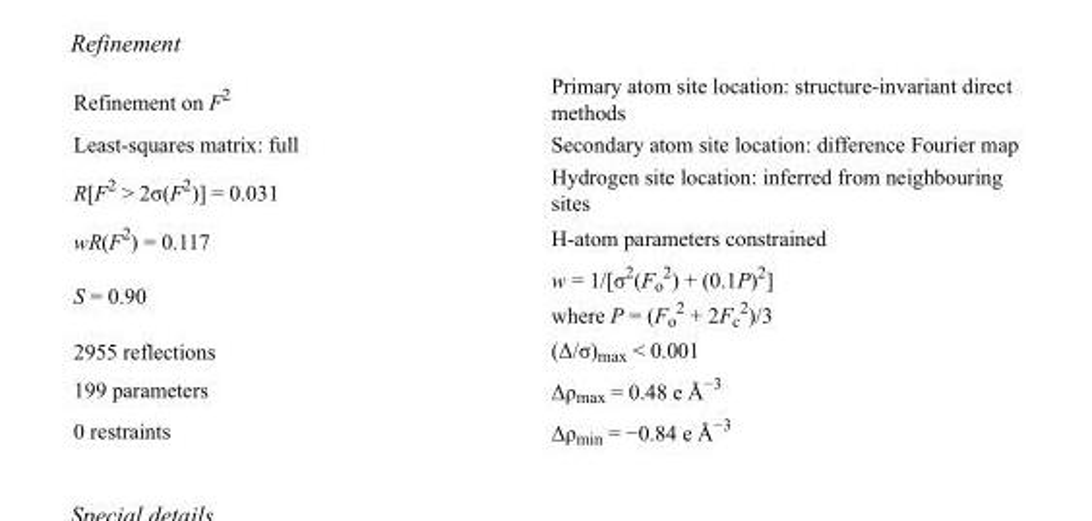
<table><tbody><tr><td>Refinement on F<sup>2</sup></td><td>Primary atom site location: structure-invariant direct methods</td></tr><tr><td>Least-squares matrix: full</td><td>Secondary atom site location: difference Fourier map</td></tr><tr><td>R[F<sup>2</sup> &gt; 2σ(F<sup>2</sup>)] = 0.031</td><td>Hydrogen site location: inferred from neighbouring sites</td></tr><tr><td>wR(F<sup>2</sup>) = 0.117</td><td>H-atom parameters constrained</td></tr><tr><td>S = 0.90</td><td>w = 1/[σ<sup>2</sup>(F<sub>o</sub> <sup>2</sup>) + (0.1P)<sup>2</sup>] where P = (F<sub>o</sub> <sup>2</sup> + 2F<sub>c</sub> <sup>2</sup>)/3</td></tr><tr><td>2955 reflections</td><td>(Δ/σ)<sub>max</sub> &lt; 0.001</td></tr><tr><td>199 parameters</td><td>Δρ<sub>max</sub> = 0.48 e Å<sup>−3</sup></td></tr><tr><td>0 restraints</td><td>Δρ<sub>min</sub> = −0.84 e Å<sup>−3</sup></td></tr></tbody></table>